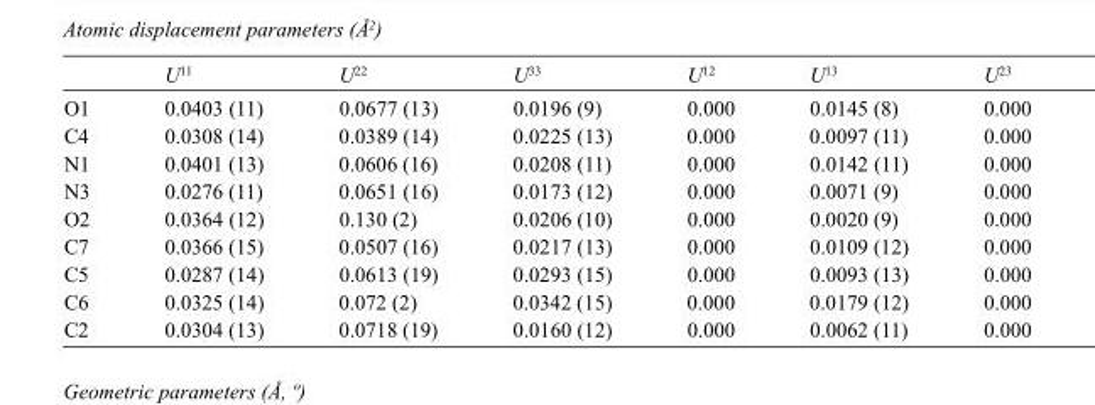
<table><thead><tr><td></td><td>U<sup>11</sup></td><td>U<sup>22</sup></td><td>U<sup>33</sup></td><td>U<sup>12</sup></td><td>U<sup>13</sup></td><td>U<sup>23</sup></td></tr></thead><tbody><tr><td>O1</td><td>0.0403 (11)</td><td>0.0677 (13)</td><td>0.0196 (9)</td><td>0.000</td><td>0.0145 (8)</td><td>0.000</td></tr><tr><td>C4</td><td>0.0308 (14)</td><td>0.0389 (14)</td><td>0.0225 (13)</td><td>0.000</td><td>0.0097 (11)</td><td>0.000</td></tr><tr><td>N1</td><td>0.0401 (13)</td><td>0.0606 (16)</td><td>0.0208 (11)</td><td>0.000</td><td>0.0142 (11)</td><td>0.000</td></tr><tr><td>N3</td><td>0.0276 (11)</td><td>0.0651 (16)</td><td>0.0173 (12)</td><td>0.000</td><td>0.0071 (9)</td><td>0.000</td></tr><tr><td>O2</td><td>0.0364 (12)</td><td>0.130 (2)</td><td>0.0206 (10)</td><td>0.000</td><td>0.0020 (9)</td><td>0.000</td></tr><tr><td>C7</td><td>0.0366 (15)</td><td>0.0507 (16)</td><td>0.0217 (13)</td><td>0.000</td><td>0.0109 (12)</td><td>0.000</td></tr><tr><td>C5</td><td>0.0287 (14)</td><td>0.0613 (19)</td><td>0.0293 (15)</td><td>0.000</td><td>0.0093 (13)</td><td>0.000</td></tr><tr><td>C6</td><td>0.0325 (14)</td><td>0.072 (2)</td><td>0.0342 (15)</td><td>0.000</td><td>0.0179 (12)</td><td>0.000</td></tr><tr><td>C2</td><td>0.0304 (13)</td><td>0.0718 (19)</td><td>0.0160 (12)</td><td>0.000</td><td>0.0062 (11)</td><td>0.000</td></tr></tbody></table>